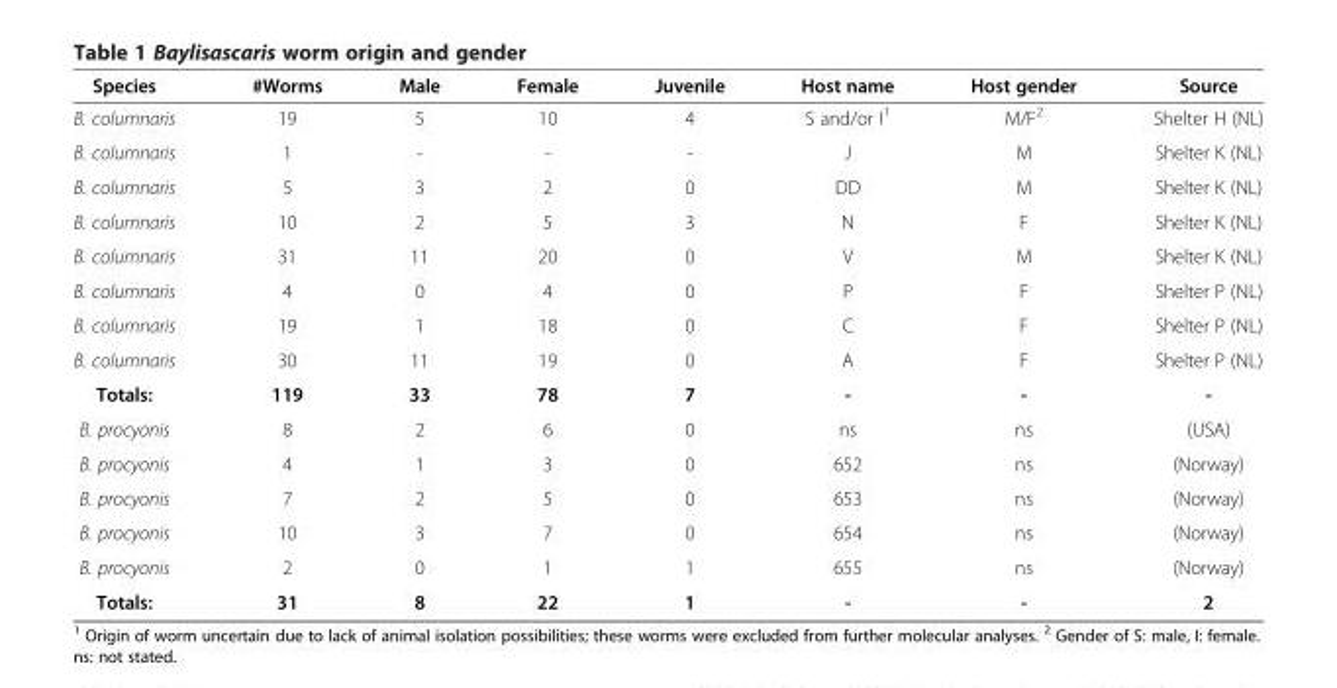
<table><thead><tr><td>Species</td><td>#Worms</td><td>Male</td><td>Female</td><td>Juvenile</td><td>Host name</td><td>Host gender</td><td>Source</td></tr></thead><tbody><tr><td>B. columnaris</td><td>19</td><td>5</td><td>10</td><td>4</td><td>S and/or I<sup>1</sup></td><td>M/F<sup>2</sup></td><td>Shelter H (NL)</td></tr><tr><td>B. columnaris</td><td>1</td><td>-</td><td>-</td><td>-</td><td>J</td><td>M</td><td>Shelter K (NL)</td></tr><tr><td>B. columnaris</td><td>5</td><td>3</td><td>2</td><td>0</td><td>DD</td><td>M</td><td>Shelter K (NL)</td></tr><tr><td>B. columnaris</td><td>10</td><td>2</td><td>5</td><td>3</td><td>N</td><td>F</td><td>Shelter K (NL)</td></tr><tr><td>B. columnaris</td><td>31</td><td>11</td><td>20</td><td>0</td><td>V</td><td>M</td><td>Shelter K (NL)</td></tr><tr><td>B. columnaris</td><td>4</td><td>0</td><td>4</td><td>0</td><td>P</td><td>F</td><td>Shelter P (NL)</td></tr><tr><td>B. columnaris</td><td>19</td><td>1</td><td>18</td><td>0</td><td>C</td><td>F</td><td>Shelter P (NL)</td></tr><tr><td>B. columnaris</td><td>30</td><td>11</td><td>19</td><td>0</td><td>A</td><td>F</td><td>Shelter P (NL)</td></tr><tr><td>Totals:</td><td>119</td><td>33</td><td>78</td><td>7</td><td>-</td><td>-</td><td>-</td></tr><tr><td>B. procyonis</td><td>8</td><td>2</td><td>6</td><td>0</td><td>ns</td><td>ns</td><td>(USA)</td></tr><tr><td>B. procyonis</td><td>4</td><td>1</td><td>3</td><td>0</td><td>652</td><td>ns</td><td>(Norway)</td></tr><tr><td>B. procyonis</td><td>7</td><td>2</td><td>5</td><td>0</td><td>653</td><td>ns</td><td>(Norway)</td></tr><tr><td>B. procyonis</td><td>10</td><td>3</td><td>7</td><td>0</td><td>654</td><td>ns</td><td>(Norway)</td></tr><tr><td>B. procyonis</td><td>2</td><td>0</td><td>1</td><td>1</td><td>655</td><td>ns</td><td>(Norway)</td></tr><tr><td>Totals:</td><td>31</td><td>8</td><td>22</td><td>1</td><td>-</td><td>-</td><td>2</td></tr></tbody></table>